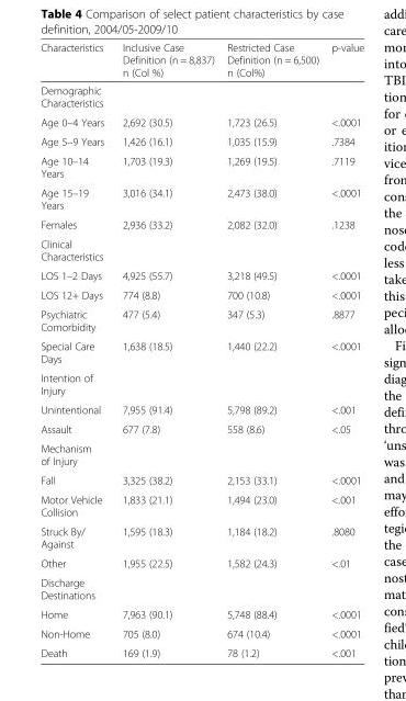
<table><thead><tr><td>Characteristics</td><td>Inclusive Case Definition (n = 8,837) n (Col %)</td><td>Restricted Case Definition (n = 6,500) n (Col%)</td><td>p-value</td></tr></thead><tbody><tr><td colspan="4">Demographic Characteristics</td></tr><tr><td>Age 0–4 Years</td><td>2,692 (30.5)</td><td>1,723 (26.5)</td><td>&lt;.0001</td></tr><tr><td>Age 5–9 Years</td><td>1,426 (16.1)</td><td>1,035 (15.9)</td><td>.7384</td></tr><tr><td>Age 10–14 Years</td><td>1,703 (19.3)</td><td>1,269 (19.5)</td><td>.7119</td></tr><tr><td>Age 15–19 Years</td><td>3,016 (34.1)</td><td>2,473 (38.0)</td><td>&lt;.0001</td></tr><tr><td>Females</td><td>2,936 (33.2)</td><td>2,082 (32.0)</td><td>.1238</td></tr><tr><td colspan="4">Clinical Characteristics</td></tr><tr><td>LOS 1–2 Days</td><td>4,925 (55.7)</td><td>3,218 (49.5)</td><td>&lt;.0001</td></tr><tr><td>LOS 12+ Days</td><td>774 (8.8)</td><td>700 (10.8)</td><td>&lt;.0001</td></tr><tr><td>Psychiatric Comorbidity</td><td>477 (5.4)</td><td>347 (5.3)</td><td>.8877</td></tr><tr><td>Special Care Days</td><td>1,638 (18.5)</td><td>1,440 (22.2)</td><td>&lt;.0001</td></tr><tr><td colspan="4">Intention of Injury</td></tr><tr><td>Unintentional</td><td>7,955 (91.4)</td><td>5,798 (89.2)</td><td>&lt;.001</td></tr><tr><td>Assault</td><td>677 (7.8)</td><td>558 (8.6)</td><td>&lt;.05</td></tr><tr><td colspan="4">Mechanism of Injury</td></tr><tr><td>Fall</td><td>3,325 (38.2)</td><td>2,153 (33.1)</td><td>&lt;.0001</td></tr><tr><td>Motor Vehicle Collision</td><td>1,833 (21.1)</td><td>1,494 (23.0)</td><td>&lt;.001</td></tr><tr><td>Struck By/ Against</td><td>1,595 (18.3)</td><td>1,184 (18.2)</td><td>.8080</td></tr><tr><td>Other</td><td>1,955 (22.5)</td><td>1,582 (24.3)</td><td>&lt;.01</td></tr><tr><td colspan="4">Discharge Destinations</td></tr><tr><td>Home</td><td>7,963 (90.1)</td><td>5,748 (88.4)</td><td>&lt;.0001</td></tr><tr><td>Non-Home</td><td>705 (8.0)</td><td>674 (10.4)</td><td>&lt;.0001</td></tr><tr><td>Death</td><td>169 (1.9)</td><td>78 (1.2)</td><td>&lt;.001</td></tr></tbody></table>